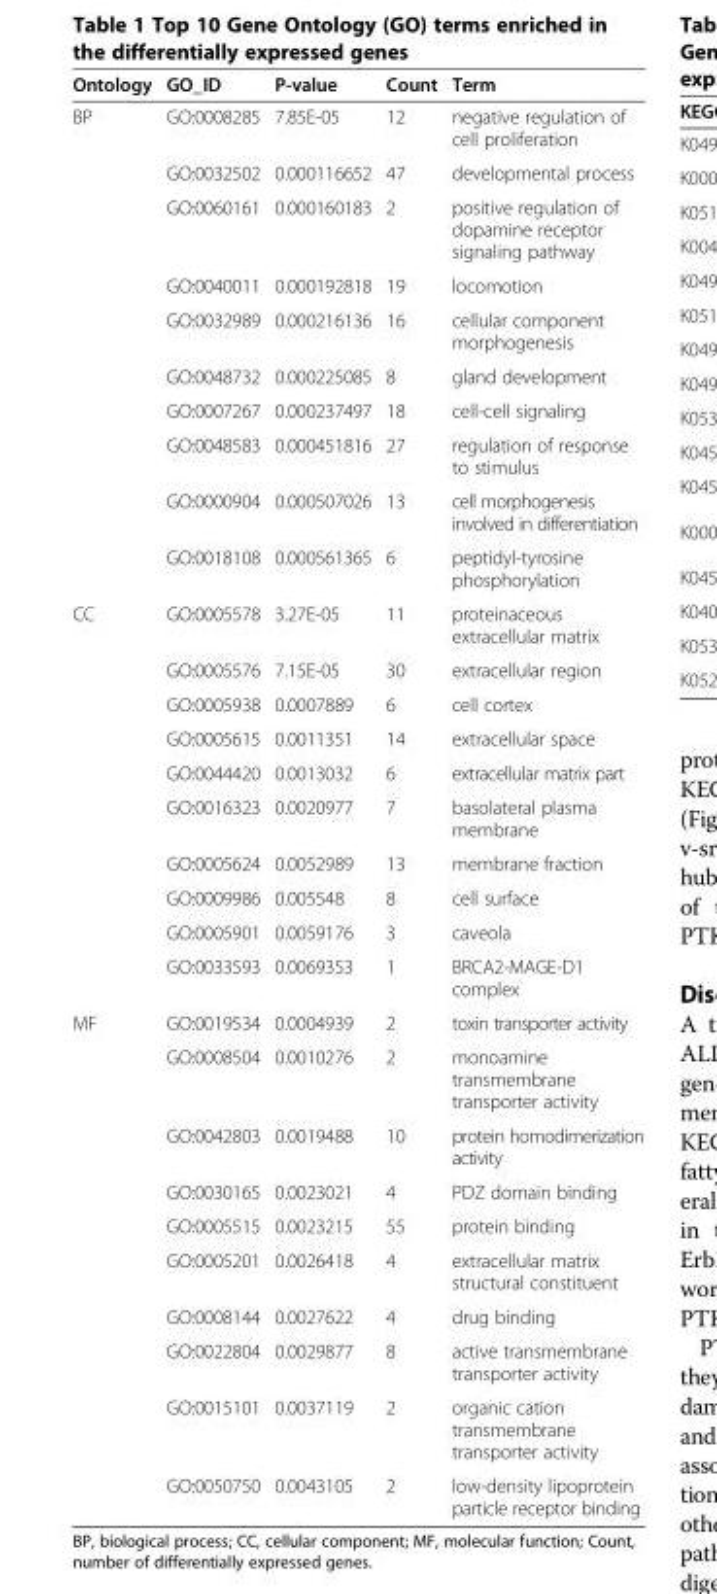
<table><thead><tr><td>Ontology</td><td>GO_ID</td><td>P-value</td><td>Count</td><td>Term</td></tr></thead><tbody><tr><td rowspan="10">BP</td><td>GO:0008285</td><td>7.85E-05</td><td>12</td><td>negative regulation of cell proliferation</td></tr><tr><td>GO:0032502</td><td>0.000116652</td><td>47</td><td>developmental process</td></tr><tr><td>GO:0060161</td><td>0.000160183</td><td>2</td><td>positive regulation of dopamine receptor signaling pathway</td></tr><tr><td>GO:0040011</td><td>0.000192818</td><td>19</td><td>locomotion</td></tr><tr><td>GO:0032989</td><td>0.000216136</td><td>16</td><td>cellular component morphogenesis</td></tr><tr><td>GO:0048732</td><td>0.000225085</td><td>8</td><td>gland development</td></tr><tr><td>GO:0007267</td><td>0.000237497</td><td>18</td><td>cell-cell signaling</td></tr><tr><td>GO:0048583</td><td>0.000451816</td><td>27</td><td>regulation of response to stimulus</td></tr><tr><td>GO:0000904</td><td>0.000507026</td><td>13</td><td>cell morphogenesis involved in differentiation</td></tr><tr><td>GO:0018108</td><td>0.000561365</td><td>6</td><td>peptidyl-tyrosine phosphorylation</td></tr><tr><td rowspan="10">CC</td><td>GO:0005578</td><td>3.27E-05</td><td>11</td><td>proteinaceous extracellular matrix</td></tr><tr><td>GO:0005576</td><td>7.15E-05</td><td>30</td><td>extracellular region</td></tr><tr><td>GO:0005938</td><td>0.0007889</td><td>6</td><td>cell cortex</td></tr><tr><td>GO:0005615</td><td>0.0011351</td><td>14</td><td>extracellular space</td></tr><tr><td>GO:0044420</td><td>0.0013032</td><td>6</td><td>extracellular matrix part</td></tr><tr><td>GO:0016323</td><td>0.0020977</td><td>7</td><td>basolateral plasma membrane</td></tr><tr><td>GO:0005624</td><td>0.0052989</td><td>13</td><td>membrane fraction</td></tr><tr><td>GO:0009986</td><td>0.005548</td><td>8</td><td>cell surface</td></tr><tr><td>GO:0005901</td><td>0.0059176</td><td>3</td><td>caveola</td></tr><tr><td>GO:0033593</td><td>0.0069353</td><td>1</td><td>BRCA2-MAGE-D1 complex</td></tr><tr><td rowspan="10">MF</td><td>GO:0019534</td><td>0.0004939</td><td>2</td><td>toxin transporter activity</td></tr><tr><td>GO:0008504</td><td>0.0010276</td><td>2</td><td>monoamine transmembrane transporter activity</td></tr><tr><td>GO:0042803</td><td>0.0019488</td><td>10</td><td>protein homodimerization activity</td></tr><tr><td>GO:0030165</td><td>0.0023021</td><td>4</td><td>PDZ domain binding</td></tr><tr><td>GO:0005515</td><td>0.0023215</td><td>55</td><td>protein binding</td></tr><tr><td>GO:0005201</td><td>0.0026418</td><td>4</td><td>extracellular matrix structural constituent</td></tr><tr><td>GO:0008144</td><td>0.0027622</td><td>4</td><td>drug binding</td></tr><tr><td>GO:0022804</td><td>0.0029877</td><td>8</td><td>active transmembrane transporter activity</td></tr><tr><td>GO:0015101</td><td>0.0037119</td><td>2</td><td>organic cation transmembrane transporter activity</td></tr><tr><td>GO:0050750</td><td>0.0043105</td><td>2</td><td>low-density lipoprotein particle receptor binding</td></tr></tbody></table>